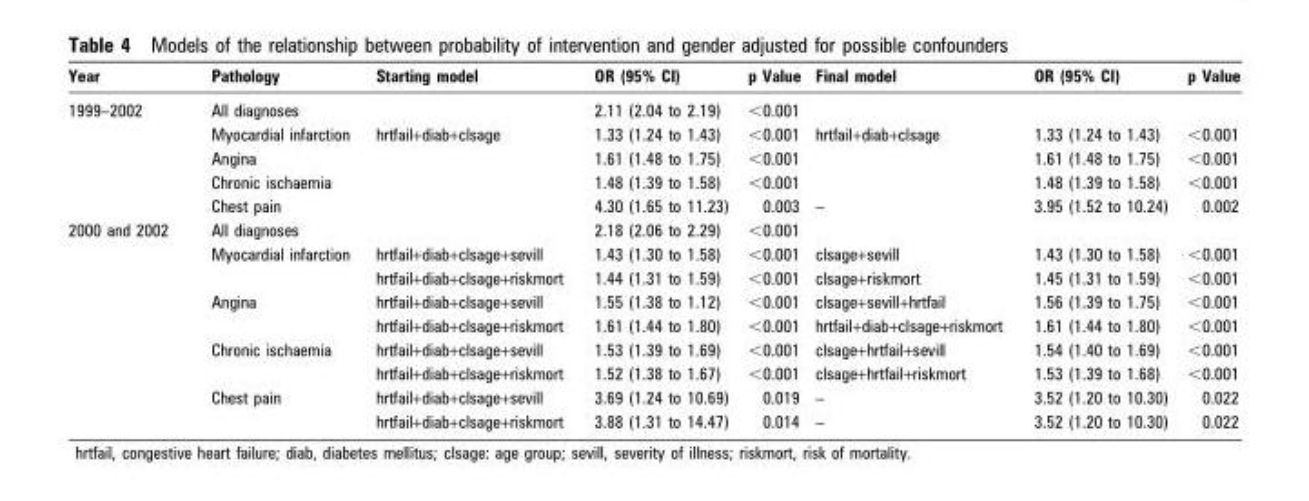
<table><thead><tr><td>Year</td><td>Pathology</td><td>Starting model</td><td>OR (95% CI)</td><td>p Value</td><td>Final model</td><td>OR (95% CI)</td><td>p Value</td></tr></thead><tbody><tr><td rowspan="5">1999–2002</td><td>All diagnoses</td><td></td><td>2.11 (2.04 to 2.19)</td><td>&lt;0.001</td><td></td><td></td><td></td></tr><tr><td>Myocardial infarction</td><td rowspan="4">hrtfail+diab+clsage</td><td>1.33 (1.24 to 1.43)</td><td>&lt;0.001</td><td rowspan="3">hrtfail+diab+clsage</td><td>1.33 (1.24 to 1.43)</td><td>&lt;0.001</td></tr><tr><td>Angina</td><td>1.61 (1.48 to 1.75)</td><td>&lt;0.001</td><td>1.61 (1.48 to 1.75)</td><td>&lt;0.001</td></tr><tr><td>Chronic ischaemia</td><td>1.48 (1.39 to 1.58)</td><td>&lt;0.001</td><td>1.48 (1.39 to 1.58)</td><td>&lt;0.001</td></tr><tr><td>Chest pain</td><td>4.30 (1.65 to 11.23)</td><td>0.003</td><td>–</td><td>3.95 (1.52 to 10.24)</td><td>0.002</td></tr><tr><td rowspan="9">2000 and 2002</td><td>All diagnoses</td><td></td><td>2.18 (2.06 to 2.29)</td><td>&lt;0.001</td><td></td><td></td><td></td></tr><tr><td rowspan="2">Myocardial infarction</td><td>hrtfail+diab+clsage+sevill</td><td>1.43 (1.30 to 1.58)</td><td>&lt;0.001</td><td>clsage+sevill</td><td>1.43 (1.30 to 1.58)</td><td>&lt;0.001</td></tr><tr><td>hrtfail+diab+clsage+riskmort</td><td>1.44 (1.31 to 1.59)</td><td>&lt;0.001</td><td>clsage+riskmort</td><td>1.45 (1.31 to 1.59)</td><td>&lt;0.001</td></tr><tr><td rowspan="2">Angina</td><td>hrtfail+diab+clsage+sevill</td><td>1.55 (1.38 to 1.12)</td><td>&lt;0.001</td><td>clsage+sevill+hrtfail</td><td>1.56 (1.39 to 1.75)</td><td>&lt;0.001</td></tr><tr><td>hrtfail+diab+clsage+riskmort</td><td>1.61 (1.44 to 1.80)</td><td>&lt;0.001</td><td>hrtfail+diab+clsage+riskmort</td><td>1.61 (1.44 to 1.80)</td><td>&lt;0.001</td></tr><tr><td rowspan="2">Chronic ischaemia</td><td>hrtfail+diab+clsage+sevill</td><td>1.53 (1.39 to 1.69)</td><td>&lt;0.001</td><td>clsage+hrtfail+sevill</td><td>1.54 (1.40 to 1.69)</td><td>&lt;0.001</td></tr><tr><td>hrtfail+diab+clsage+riskmort</td><td>1.52 (1.38 to 1.67)</td><td>&lt;0.001</td><td>clsage+hrtfail+riskmort</td><td>1.53 (1.39 to 1.68)</td><td>&lt;0.001</td></tr><tr><td rowspan="2">Chest pain</td><td>hrtfail+diab+clsage+sevill</td><td>3.69 (1.24 to 10.69)</td><td>0.019</td><td>–</td><td>3.52 (1.20 to 10.30)</td><td>0.022</td></tr><tr><td>hrtfail+diab+clsage+riskmort</td><td>3.88 (1.31 to 14.47)</td><td>0.014</td><td>–</td><td>3.52 (1.20 to 10.30)</td><td>0.022</td></tr></tbody></table>